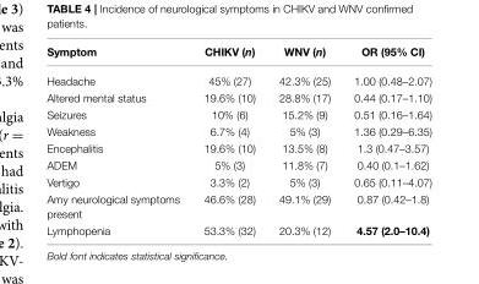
<table><thead><tr><td>Symptom</td><td>CHIKV (n)</td><td>WNV (n)</td><td>OR (95% CI)</td></tr></thead><tbody><tr><td>Headache</td><td>45% (27)</td><td>42.3% (25)</td><td>1.00 (0.48–2.07)</td></tr><tr><td>Altered mental status</td><td>19.6% (10)</td><td>28.8% (17)</td><td>0.44 (0.17–1.10)</td></tr><tr><td>Seizures</td><td>10% (6)</td><td>15.2% (9)</td><td>0.51 (0.16–1.64)</td></tr><tr><td>Weakness</td><td>6.7% (4)</td><td>5% (3)</td><td>1.36 (0.29–6.35)</td></tr><tr><td>Encephalitis</td><td>19.6% (10)</td><td>13.5% (8)</td><td>1.3 (0.47–3.57)</td></tr><tr><td>ADEM</td><td>5% (3)</td><td>11.8% (7)</td><td>0.40 (0.1–1.62)</td></tr><tr><td>Vertigo</td><td>3.3% (2)</td><td>5% (3)</td><td>0.65 (0.11–4.07)</td></tr><tr><td>Amy neurological symptoms present</td><td>46.6% (28)</td><td>49.1% (29)</td><td>0.87 (0.42–1.8)</td></tr><tr><td>Lymphopenia</td><td>53.3% (32)</td><td>20.3% (12)</td><td>4.57 (2.0–10.4)</td></tr></tbody></table>